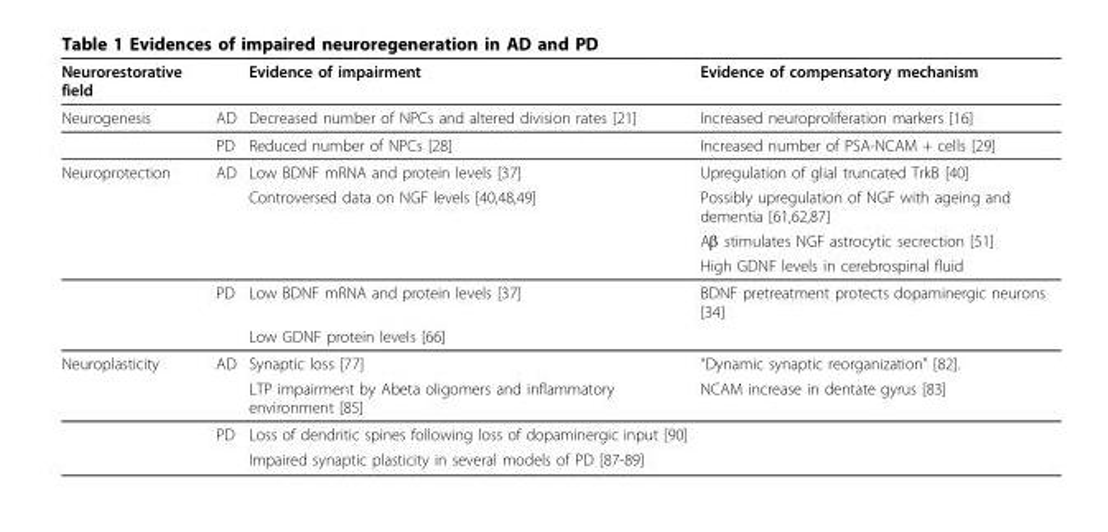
<table><thead><tr><td>Neurorestorative field</td><td></td><td>Evidence of impairment</td><td>Evidence of compensatory mechanism</td></tr></thead><tbody><tr><td rowspan="2">Neurogenesis</td><td>AD</td><td>Decreased number of NPCs and altered division rates [21]</td><td>Increased neuroproliferation markers [16]</td></tr><tr><td>PD</td><td>Reduced number of NPCs [28]</td><td>Increased number of PSA-NCAM + cells [29]</td></tr><tr><td rowspan="6">Neuroprotection</td><td>AD</td><td>Low BDNF mRNA and protein levels [37]</td><td>Upregulation of glial truncated TrkB [40]</td></tr><tr><td></td><td>Controversed data on NGF levels [40,48,49]</td><td>Possibly upregulation of NGF with ageing and dementia [61,62,87]</td></tr><tr><td></td><td></td><td>Aβ stimulates NGF astrocytic secrection [51]</td></tr><tr><td></td><td></td><td>High GDNF levels in cerebrospinal fluid</td></tr><tr><td>PD</td><td>Low BDNF mRNA and protein levels [37]</td><td>BDNF pretreatment protects dopaminergic neurons [34]</td></tr><tr><td></td><td>Low GDNF protein levels [66]</td><td></td></tr><tr><td rowspan="4">Neuroplasticity</td><td>AD</td><td>Synaptic loss [77]</td><td>“Dynamic synaptic reorganization” [82].</td></tr><tr><td></td><td>LTP impairment by Abeta oligomers and inflammatory environment [85]</td><td>NCAM increase in dentate gyrus [83]</td></tr><tr><td>PD</td><td>Loss of dendritic spines following loss of dopaminergic input [90]</td><td></td></tr><tr><td></td><td>Impaired synaptic plasticity in several models of PD [87-89]</td><td></td></tr></tbody></table>